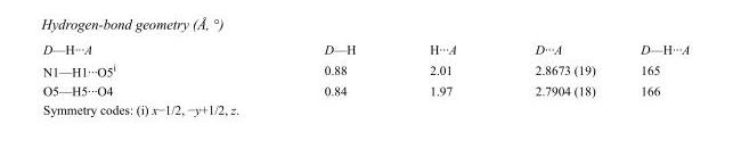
<table><tbody><tr><td>D—H···A</td><td>D—H</td><td>H···A</td><td>D···A</td><td>D—H···A</td></tr><tr><td>N1—H1···O5<sup>i</sup></td><td>0.88</td><td>2.01</td><td>2.8673 (19)</td><td>165</td></tr><tr><td>O5—H5···O4</td><td>0.84</td><td>1.97</td><td>2.7904 (18)</td><td>166</td></tr></tbody></table>